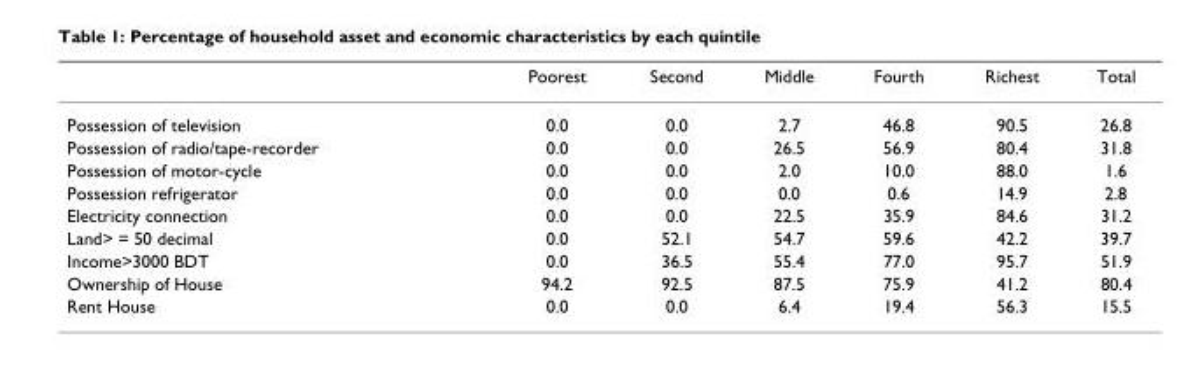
<table><thead><tr><td></td><td>Poorest</td><td>Second</td><td>Middle</td><td>Fourth</td><td>Richest</td><td>Total</td></tr></thead><tbody><tr><td>Possession of television</td><td>0.0</td><td>0.0</td><td>2.7</td><td>46.8</td><td>90.5</td><td>26.8</td></tr><tr><td>Possession of radio/tape-recorder</td><td>0.0</td><td>0.0</td><td>26.5</td><td>56.9</td><td>80.4</td><td>31.8</td></tr><tr><td>Possession of motor-cycle</td><td>0.0</td><td>0.0</td><td>2.0</td><td>10.0</td><td>88.0</td><td>1.6</td></tr><tr><td>Possession refrigerator</td><td>0.0</td><td>0.0</td><td>0.0</td><td>0.6</td><td>14.9</td><td>2.8</td></tr><tr><td>Electricity connection</td><td>0.0</td><td>0.0</td><td>22.5</td><td>35.9</td><td>84.6</td><td>31.2</td></tr><tr><td>Land&gt; = 50 decimal</td><td>0.0</td><td>52.1</td><td>54.7</td><td>59.6</td><td>42.2</td><td>39.7</td></tr><tr><td>Income&gt;3000 BDT</td><td>0.0</td><td>36.5</td><td>55.4</td><td>77.0</td><td>95.7</td><td>51.9</td></tr><tr><td>Ownership of House</td><td>94.2</td><td>92.5</td><td>87.5</td><td>75.9</td><td>41.2</td><td>80.4</td></tr><tr><td>Rent House</td><td>0.0</td><td>0.0</td><td>6.4</td><td>19.4</td><td>56.3</td><td>15.5</td></tr></tbody></table>